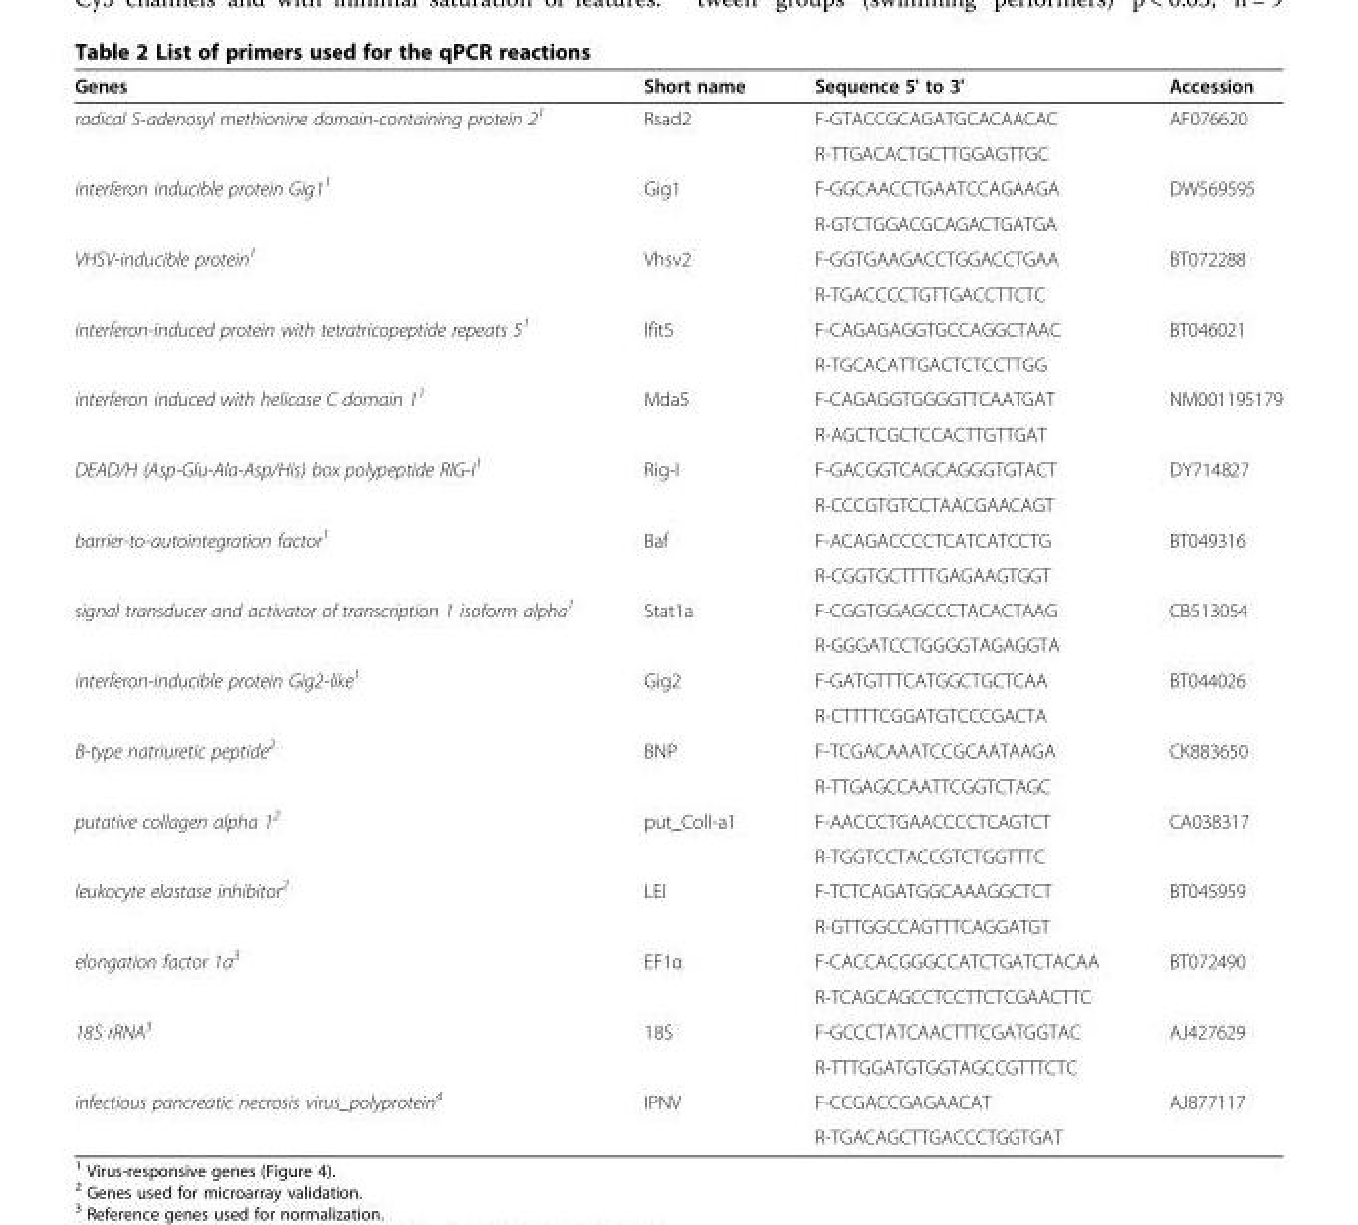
<table><thead><tr><td>Genes</td><td>Short name</td><td>Sequence 5&#x27; to 3&#x27;</td><td>Accession</td></tr></thead><tbody><tr><td rowspan="2">radical S-adenosyl methionine domain-containing protein 2<sup>1</sup></td><td>Rsad2</td><td>F-GTACCGCAGATGCACAACAC</td><td>AF076620</td></tr><tr><td></td><td>R-TTGACACTGCTTGGAGTTGC</td><td></td></tr><tr><td rowspan="2">interferon inducible protein Gig1<sup>1</sup></td><td>Gig1</td><td>F-GGCAACCTGAATCCAGAAGA</td><td>DW569595</td></tr><tr><td></td><td>R-GTCTGGACGCAGACTGATGA</td><td></td></tr><tr><td rowspan="2">VHSV-inducible protein<sup>1</sup></td><td>Vhsv2</td><td>F-GGTGAAGACCTGGACCTGAA</td><td>BT072288</td></tr><tr><td></td><td>R-TGACCCCTGTTGACCTTCTC</td><td></td></tr><tr><td rowspan="2">interferon-induced protein with tetratricopeptide repeats 5<sup>1</sup></td><td>Ifit5</td><td>F-CAGAGAGGTGCCAGGCTAAC</td><td>BT046021</td></tr><tr><td></td><td>R-TGCACATTGACTCTCCTTGG</td><td></td></tr><tr><td rowspan="2">interferon induced with helicase C domain 1<sup>1</sup></td><td>Mda5</td><td>F-CAGAGGTGGGGTTCAATGAT</td><td>NM001195179</td></tr><tr><td></td><td>R-AGCTCGCTCCACTTGTTGAT</td><td></td></tr><tr><td rowspan="2">DEAD/H (Asp-Glu-Ala-Asp/His) box polypeptide RIG-I<sup>1</sup></td><td>Rig-I</td><td>F-GACGGTCAGCAGGGTGTACT</td><td>DY714827</td></tr><tr><td></td><td>R-CCCGTGTCCTAACGAACAGT</td><td></td></tr><tr><td rowspan="2">barrier-to-autointegration factor<sup>1</sup></td><td>Baf</td><td>F-ACAGACCCCTCATCATCCTG</td><td>BT049316</td></tr><tr><td></td><td>R-CGGTGCTTTTGAGAAGTGGT</td><td></td></tr><tr><td rowspan="2">signal transducer and activator of transcription 1 isoform alpha<sup>1</sup></td><td>Stat1a</td><td>F-CGGTGGAGCCCTACACTAAG</td><td>CB513054</td></tr><tr><td></td><td>R-GGGATCCTGGGGTAGAGGTA</td><td></td></tr><tr><td rowspan="2">interferon-inducible protein Gig2-like<sup>1</sup></td><td>Gig2</td><td>F-GATGTTTCATGGCTGCTCAA</td><td>BT044026</td></tr><tr><td></td><td>R-CTTTTCGGATGTCCCGACTA</td><td></td></tr><tr><td rowspan="2">B-type natriuretic peptide<sup>2</sup></td><td>BNP</td><td>F-TCGACAAATCCGCAATAAGA</td><td>CK883650</td></tr><tr><td></td><td>R-TTGAGCCAATTCGGTCTAGC</td><td></td></tr><tr><td rowspan="2">putative collagen alpha 1<sup>2</sup></td><td>put_Coll-a1</td><td>F-AACCCTGAACCCCTCAGTCT</td><td>CA038317</td></tr><tr><td></td><td>R-TGGTCCTACCGTCTGGTTTC</td><td></td></tr><tr><td rowspan="2">leukocyte elastase inhibitor<sup>2</sup></td><td>LEI</td><td>F-TCTCAGATGGCAAAGGCTCT</td><td>BT045959</td></tr><tr><td></td><td>R-GTTGGCCAGTTTCAGGATGT</td><td></td></tr><tr><td rowspan="2">elongation factor 1a<sup>3</sup></td><td>EF1α</td><td>F-CACCACGGGCCATCTGATCTACAA</td><td>BT072490</td></tr><tr><td></td><td>R-TCAGCAGCCTCCTTCTCGAACTTC</td><td></td></tr><tr><td rowspan="2">18S rRNA<sup>3</sup></td><td>18S</td><td>F-GCCCTATCAACTTTCGATGGTAC</td><td>AJ427629</td></tr><tr><td></td><td>R-TTTGGATGTGGTAGCCGTTTCTC</td><td></td></tr><tr><td rowspan="2">infectious pancreatic necrosis virus_polyprotein<sup>4</sup></td><td>IPNV</td><td>F-CCGACCGAGAACAT</td><td>AJ877117</td></tr><tr><td></td><td>R-TGACAGCTTGACCCTGGTGAT</td><td></td></tr></tbody></table>